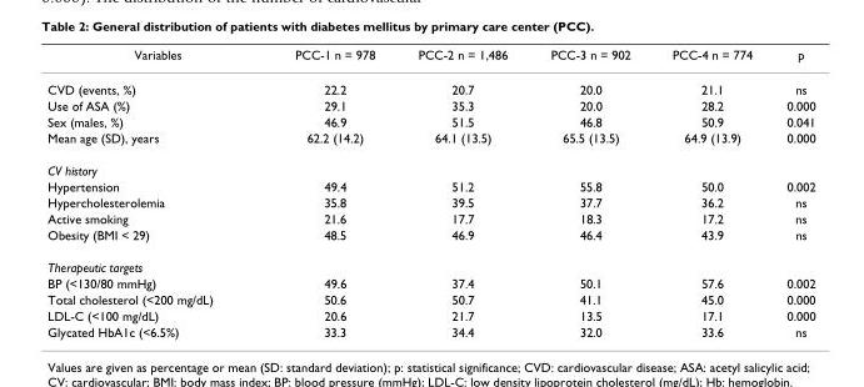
<table><thead><tr><td>Variables</td><td>PCC-1 n = 978</td><td>PCC-2 n = 1,486</td><td>PCC-3 n = 902</td><td>PCC-4 n = 774</td><td>p</td></tr></thead><tbody><tr><td>CVD (events, %)</td><td>22.2</td><td>20.7</td><td>20.0</td><td>21.1</td><td>ns</td></tr><tr><td>Use of ASA (%)</td><td>29.1</td><td>35.3</td><td>20.0</td><td>28.2</td><td>0.000</td></tr><tr><td>Sex (males, %)</td><td>46.9</td><td>51.5</td><td>46.8</td><td>50.9</td><td>0.041</td></tr><tr><td>Mean age (SD), years</td><td>62.2 (14.2)</td><td>64.1 (13.5)</td><td>65.5 (13.5)</td><td>64.9 (13.9)</td><td>0.000</td></tr><tr><td colspan="6">CV history</td></tr><tr><td>Hypertension</td><td>49.4</td><td>51.2</td><td>55.8</td><td>50.0</td><td>0.002</td></tr><tr><td>Hypercholesterolemia</td><td>35.8</td><td>39.5</td><td>37.7</td><td>36.2</td><td>ns</td></tr><tr><td>Active smoking</td><td>21.6</td><td>17.7</td><td>18.3</td><td>17.2</td><td>ns</td></tr><tr><td>Obesity (BMI &lt; 29)</td><td>48.5</td><td>46.9</td><td>46.4</td><td>43.9</td><td>ns</td></tr><tr><td colspan="6">Therapeutic targets</td></tr><tr><td>BP (&lt;130/80 mmHg)</td><td>49.6</td><td>37.4</td><td>50.1</td><td>57.6</td><td>0.002</td></tr><tr><td>Total cholesterol (&lt;200 mg/dL)</td><td>50.6</td><td>50.7</td><td>41.1</td><td>45.0</td><td>0.000</td></tr><tr><td>LDL-C (&lt;100 mg/dL)</td><td>20.6</td><td>21.7</td><td>13.5</td><td>17.1</td><td>0.000</td></tr><tr><td>Glycated HbA1c (&lt;6.5%)</td><td>33.3</td><td>34.4</td><td>32.0</td><td>33.6</td><td>ns</td></tr></tbody></table>